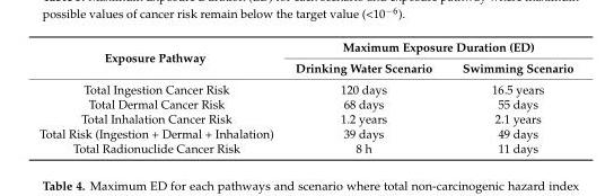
<table><thead><tr><td rowspan="2">Exposure Pathway</td><td colspan="2">Maximum Exposure Duration (ED)</td></tr><tr><td>Drinking Water Scenario</td><td>Swimming Scenario</td></tr></thead><tbody><tr><td>Total Ingestion Cancer Risk</td><td>120 days</td><td>16.5 years</td></tr><tr><td>Total Dermal Cancer Risk</td><td>68 days</td><td>55 days</td></tr><tr><td>Total Inhalation Cancer Risk</td><td>1.2 years</td><td>2.1 years</td></tr><tr><td>Total Risk (Ingestion + Dermal + Inhalation)</td><td>39 days</td><td>49 days</td></tr><tr><td>Total Radionuclide Cancer Risk</td><td>8 h</td><td>11 days</td></tr></tbody></table>